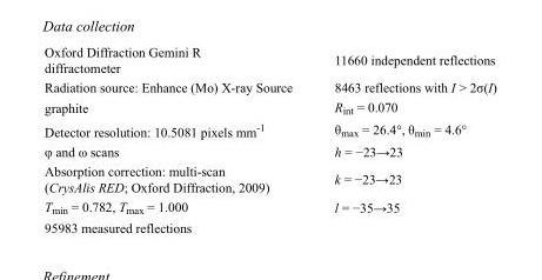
<table><tbody><tr><td>Oxford Diffraction Gemini R diffractometer</td><td>11660 independent reflections</td></tr><tr><td>Radiation source: Enhance (Mo) X-ray Source</td><td>8463 reflections with I &gt; 2σ(I)</td></tr><tr><td>graphite</td><td>R<sub>int</sub> = 0.070</td></tr><tr><td>Detector resolution: 10.5081 pixels mm<sup>-1</sup></td><td>θ<sub>max</sub> = 26.4°, θ<sub>min</sub> = 4.6°</td></tr><tr><td>φ and ω scans</td><td>h = −23→23</td></tr><tr><td>Absorption correction: multi-scan (CrysAlis RED; Oxford Diffraction, 2009)</td><td>k = −23→23</td></tr><tr><td>T<sub>min</sub> = 0.782, T<sub>max</sub> = 1.000</td><td>l = −35→35</td></tr><tr><td>95983 measured reflections</td><td></td></tr></tbody></table>